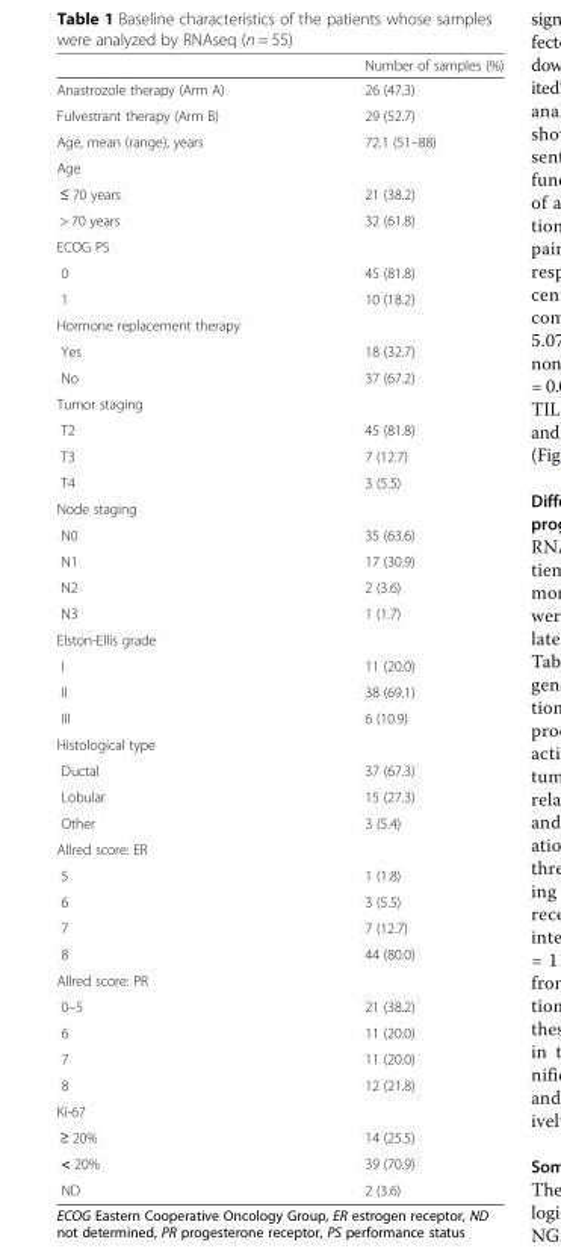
<table><thead><tr><td></td><td>Number of samples (%)</td></tr></thead><tbody><tr><td>Anastrozole therapy (Arm A)</td><td>26 (47.3)</td></tr><tr><td>Fulvestrant therapy (Arm B)</td><td>29 (52.7)</td></tr><tr><td>Age, mean (range), years</td><td>72.1 (51–88)</td></tr><tr><td colspan="2">Age</td></tr><tr><td>≤ 70 years</td><td>21 (38.2)</td></tr><tr><td>&gt; 70 years</td><td>32 (61.8)</td></tr><tr><td colspan="2">ECOG PS</td></tr><tr><td>0</td><td>45 (81.8)</td></tr><tr><td>1</td><td>10 (18.2)</td></tr><tr><td colspan="2">Hormone replacement therapy</td></tr><tr><td>Yes</td><td>18 (32.7)</td></tr><tr><td>No</td><td>37 (67.2)</td></tr><tr><td colspan="2">Tumor staging</td></tr><tr><td>T2</td><td>45 (81.8)</td></tr><tr><td>T3</td><td>7 (12.7)</td></tr><tr><td>T4</td><td>3 (5.5)</td></tr><tr><td colspan="2">Node staging</td></tr><tr><td>N0</td><td>35 (63.6)</td></tr><tr><td>N1</td><td>17 (30.9)</td></tr><tr><td>N2</td><td>2 (3.6)</td></tr><tr><td>N3</td><td>1 (1.7)</td></tr><tr><td colspan="2">Elston-Ellis grade</td></tr><tr><td>I</td><td>11 (20.0)</td></tr><tr><td>II</td><td>38 (69.1)</td></tr><tr><td>III</td><td>6 (10.9)</td></tr><tr><td colspan="2">Histological type</td></tr><tr><td>Ductal</td><td>37 (67.3)</td></tr><tr><td>Lobular</td><td>15 (27.3)</td></tr><tr><td>Other</td><td>3 (5.4)</td></tr><tr><td colspan="2">Allred score: ER</td></tr><tr><td>5</td><td>1 (1.8)</td></tr><tr><td>6</td><td>3 (5.5)</td></tr><tr><td>7</td><td>7 (12.7)</td></tr><tr><td>8</td><td>44 (80.0)</td></tr><tr><td colspan="2">Allred score: PR</td></tr><tr><td>0–5</td><td>21 (38.2)</td></tr><tr><td>6</td><td>11 (20.0)</td></tr><tr><td>7</td><td>11 (20.0)</td></tr><tr><td>8</td><td>12 (21.8)</td></tr><tr><td colspan="2">Ki-67</td></tr><tr><td>≥ 20%</td><td>14 (25.5)</td></tr><tr><td>&lt; 20%</td><td>39 (70.9)</td></tr><tr><td>ND</td><td>2 (3.6)</td></tr></tbody></table>